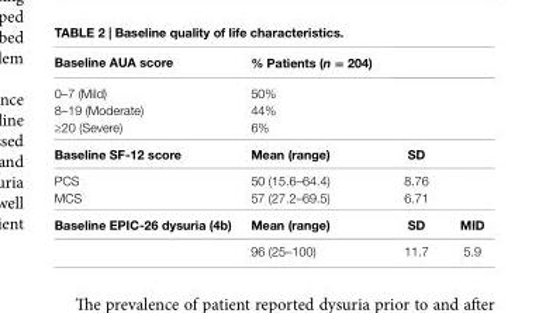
<table><thead><tr><td>Baseline aUa score</td><td>% Patients (n = 204)</td><td></td><td></td></tr></thead><tbody><tr><td>0–7 (Mild)</td><td>50%</td><td></td><td></td></tr><tr><td>8–19 (Moderate)</td><td>44%</td><td></td><td></td></tr><tr><td>≥20 (Severe)</td><td>6%</td><td></td><td></td></tr><tr><td>Baseline sF-12 score</td><td>Mean (range)</td><td>sD</td><td></td></tr><tr><td>PCS</td><td>50 (15.6–64.4)</td><td>8.76</td><td></td></tr><tr><td>MCS</td><td>57 (27.2–69.5)</td><td>6.71</td><td></td></tr><tr><td rowspan="2">Baseline ePic-26 dysuria (4b)</td><td>Mean (range)</td><td>sD</td><td>MiD</td></tr><tr><td>96 (25–100)</td><td>11.7</td><td>5.9</td></tr></tbody></table>